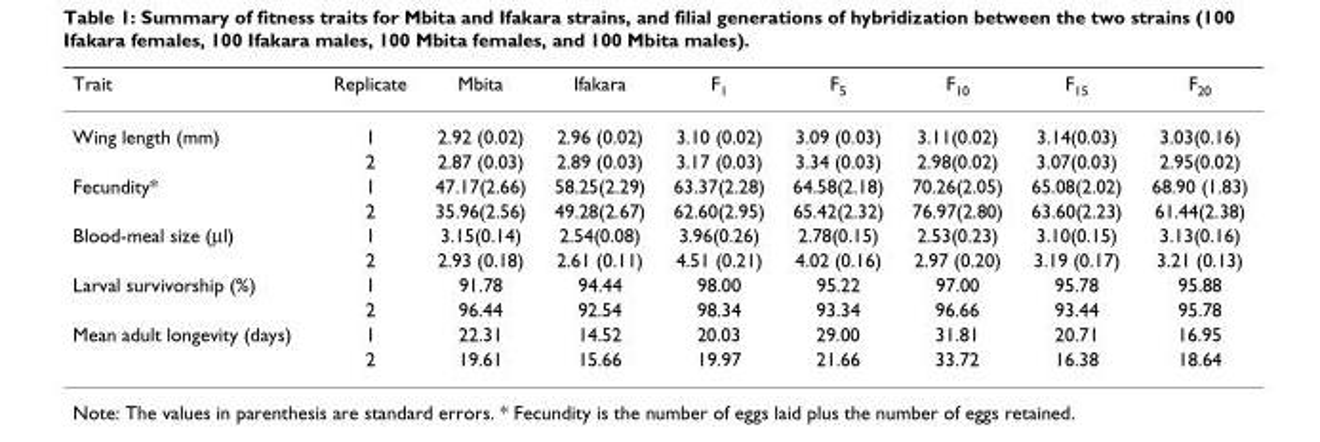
<table><thead><tr><td>Trait</td><td>Replicate</td><td>Mbita</td><td>Ifakara</td><td>F<sub>1</sub></td><td>F<sub>5</sub></td><td>F<sub>10</sub></td><td>F<sub>15</sub></td><td>F<sub>20</sub></td></tr></thead><tbody><tr><td rowspan="2">Wing length (mm)</td><td>1</td><td>2.92 (0.02)</td><td>2.96 (0.02)</td><td>3.10 (0.02)</td><td>3.09 (0.03)</td><td>3.11(0.02)</td><td>3.14(0.03)</td><td>3.03(0.16)</td></tr><tr><td>2</td><td>2.87 (0.03)</td><td>2.89 (0.03)</td><td>3.17 (0.03)</td><td>3.34 (0.03)</td><td>2.98(0.02)</td><td>3.07(0.03)</td><td>2.95(0.02)</td></tr><tr><td rowspan="2">Fecundity*</td><td>1</td><td>47.17(2.66)</td><td>58.25(2.29)</td><td>63.37(2.28)</td><td>64.58(2.18)</td><td>70.26(2.05)</td><td>65.08(2.02)</td><td>68.90 (1.83)</td></tr><tr><td>2</td><td>35.96(2.56)</td><td>49.28(2.67)</td><td>62.60(2.95)</td><td>65.42(2.32)</td><td>76.97(2.80)</td><td>63.60(2.23)</td><td>61.44(2.38)</td></tr><tr><td rowspan="2">Blood-meal size (µl)</td><td>1</td><td>3.15(0.14)</td><td>2.54(0.08)</td><td>3.96(0.26)</td><td>2.78(0.15)</td><td>2.53(0.23)</td><td>3.10(0.15)</td><td>3.13(0.16)</td></tr><tr><td>2</td><td>2.93 (0.18)</td><td>2.61 (0.11)</td><td>4.51 (0.21)</td><td>4.02 (0.16)</td><td>2.97 (0.20)</td><td>3.19 (0.17)</td><td>3.21 (0.13)</td></tr><tr><td rowspan="2">Larval survivorship (%)</td><td>1</td><td>91.78</td><td>94.44</td><td>98.00</td><td>95.22</td><td>97.00</td><td>95.78</td><td>95.88</td></tr><tr><td>2</td><td>96.44</td><td>92.54</td><td>98.34</td><td>93.34</td><td>96.66</td><td>93.44</td><td>95.78</td></tr><tr><td rowspan="2">Mean adult longevity (days)</td><td>1</td><td>22.31</td><td>14.52</td><td>20.03</td><td>29.00</td><td>31.81</td><td>20.71</td><td>16.95</td></tr><tr><td>2</td><td>19.61</td><td>15.66</td><td>19.97</td><td>21.66</td><td>33.72</td><td>16.38</td><td>18.64</td></tr></tbody></table>